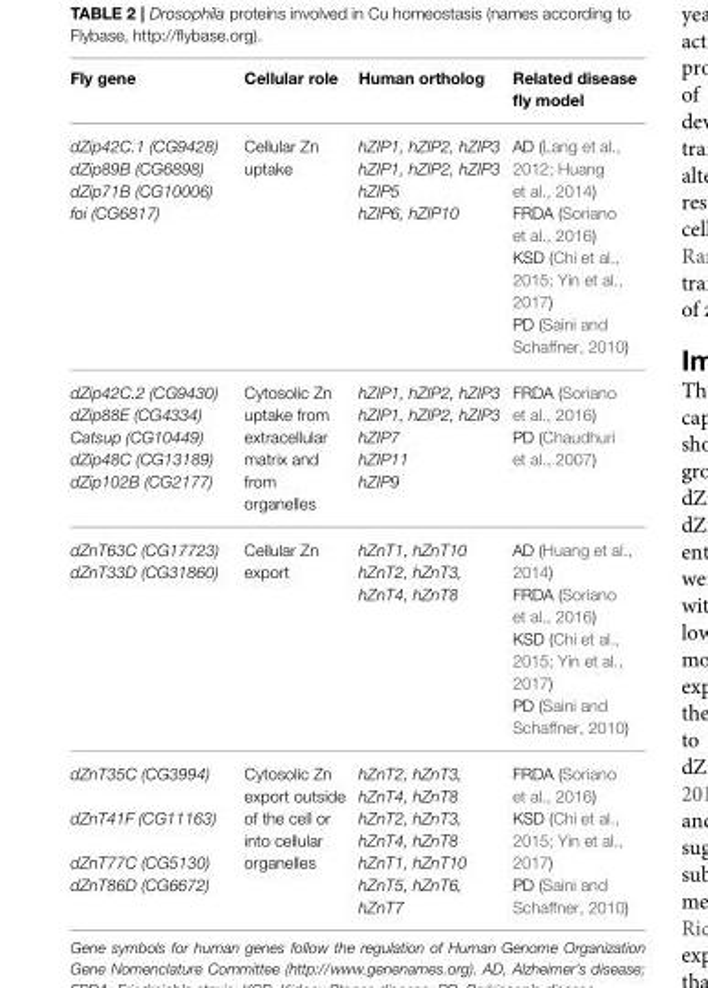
<table><thead><tr><td>Fly gene</td><td>Cellular role</td><td>Human ortholog</td><td>Related disease fly model</td></tr></thead><tbody><tr><td>dZip42C.1 (CG9428) dZip89B (CG6898) dZip71B (CG10006) foi (CG6817)</td><td>Cellular Zn uptake</td><td>hZIP1, hZIP2, hZIP3 hZIP1, hZIP2, hZIP3 hZIP5 hZIP6, hZIP10</td><td>AD (Lang et al., 2012; Huang et al., 2014) FRDA (Soriano et al., 2016) KSD (Chi et al., 2015; Yin et al., 2017) PD (Saini and Schaffner, 2010)</td></tr><tr><td>dZip42C.2 (CG9430) dZip88E (CG4334) Catsup (CG10449) dZip48C (CG13189) dZip102B (CG2177)</td><td>Cytosolic Zn uptake from extracellular matrix and from organelles</td><td>hZIP1, hZIP2, hZIP3 hZIP1, hZIP2, hZIP3 hZIP7 hZIP11 hZIP9</td><td>FRDA (Soriano et al., 2016) PD (Chaudhuri et al., 2007)</td></tr><tr><td>dZnT63C (CG17723) dZnT33D (CG31860)</td><td>Cellular Zn export</td><td>hZnT1, hZnT10 hZnT2, hZnT3, hZnT4, hZnT8</td><td>AD (Huang et al., 2014) FRDA (Soriano et al., 2016) KSD (Chi et al., 2015; Yin et al., 2017) PD (Saini and Schaffner, 2010)</td></tr><tr><td>dZnT35C (CG3994) dZnT41F (CG11163) dZnT77C (CG5130) dZnT86D (CG6672)</td><td>Cytosolic Zn export outside of the cell or into cellular organelles</td><td>hZnT2, hZnT3, hZnT4, hZnT8 hZnT2, hZnT3, hZnT4, hZnT8 hZnT1, hZnT10 hZnT5, hZnT6, hZnT7</td><td>FRDA (Soriano et al., 2016) KSD (Chi et al., 2015; Yin et al., 2017) PD (Saini and Schaffner, 2010)</td></tr></tbody></table>